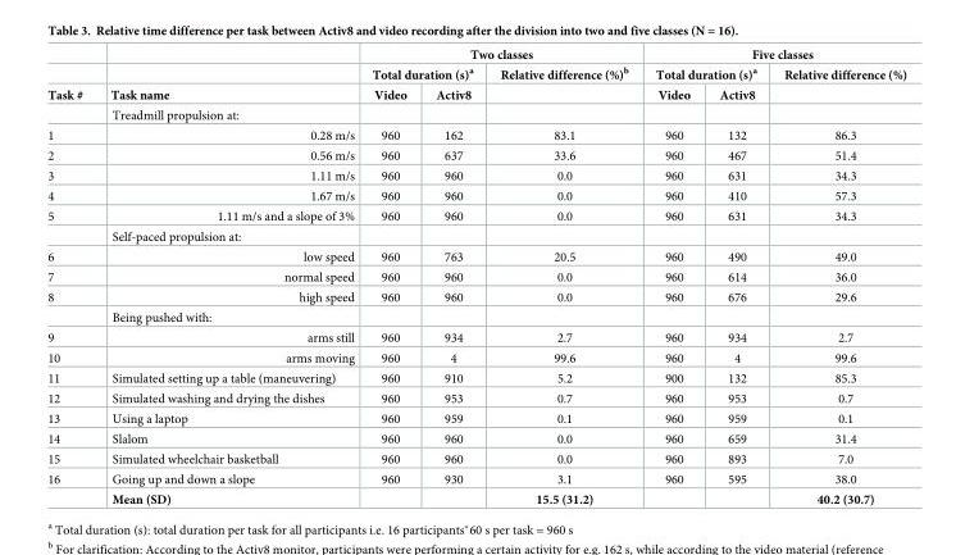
<table><thead><tr><td rowspan="3">Task #</td><td rowspan="3">Task name</td><td colspan="3">Two classes</td><td colspan="3">Five classes</td></tr><tr><td colspan="2">Total duration (s)<sup>a</sup></td><td rowspan="2">Relative difference (%)<sup>b</sup></td><td colspan="2">Total duration (s)<sup>a</sup></td><td rowspan="2">Relative difference (%)</td></tr><tr><td>Video</td><td>Activ8</td><td>Video</td><td>Activ8</td></tr></thead><tbody><tr><td></td><td>Treadmill propulsion at:</td><td></td><td></td><td></td><td></td><td></td><td></td></tr><tr><td>1</td><td>0.28 m/s</td><td>960</td><td>162</td><td>83.1</td><td>960</td><td>132</td><td>86.3</td></tr><tr><td>2</td><td>0.56 m/s</td><td>960</td><td>637</td><td>33.6</td><td>960</td><td>467</td><td>51.4</td></tr><tr><td>3</td><td>1.11 m/s</td><td>960</td><td>960</td><td>0.0</td><td>960</td><td>631</td><td>34.3</td></tr><tr><td>4</td><td>1.67 m/s</td><td>960</td><td>960</td><td>0.0</td><td>960</td><td>410</td><td>57.3</td></tr><tr><td rowspan="2">5</td><td>1.11 m/s and a slope of 3%</td><td>960</td><td>960</td><td>0.0</td><td>960</td><td>631</td><td>34.3</td></tr><tr><td>Self-paced propulsion at:</td><td></td><td></td><td></td><td></td><td></td><td></td></tr><tr><td>6</td><td>low speed</td><td>960</td><td>763</td><td>20.5</td><td>960</td><td>490</td><td>49.0</td></tr><tr><td>7</td><td>normal speed</td><td>960</td><td>960</td><td>0.0</td><td>960</td><td>614</td><td>36.0</td></tr><tr><td rowspan="2">8</td><td>high speed</td><td>960</td><td>960</td><td>0.0</td><td>960</td><td>676</td><td>29.6</td></tr><tr><td>Being pushed with:</td><td></td><td></td><td></td><td></td><td></td><td></td></tr><tr><td>9</td><td>arms still</td><td>960</td><td>934</td><td>2.7</td><td>960</td><td>934</td><td>2.7</td></tr><tr><td>10</td><td>arms moving</td><td>960</td><td>4</td><td>99.6</td><td>960</td><td>4</td><td>99.6</td></tr><tr><td>11</td><td>Simulated setting up a table (maneuvering)</td><td>960</td><td>910</td><td>5.2</td><td>900</td><td>132</td><td>85.3</td></tr><tr><td>12</td><td>Simulated washing and drying the dishes</td><td>960</td><td>953</td><td>0.7</td><td>960</td><td>953</td><td>0.7</td></tr><tr><td>13</td><td>Using a laptop</td><td>960</td><td>959</td><td>0.1</td><td>960</td><td>959</td><td>0.1</td></tr><tr><td>14</td><td>Slalom</td><td>960</td><td>960</td><td>0.0</td><td>960</td><td>659</td><td>31.4</td></tr><tr><td>15</td><td>Simulated wheelchair basketball</td><td>960</td><td>960</td><td>0.0</td><td>960</td><td>893</td><td>7.0</td></tr><tr><td rowspan="2">16</td><td>Going up and down a slope</td><td>960</td><td>930</td><td>3.1</td><td>960</td><td>595</td><td>38.0</td></tr><tr><td>Mean (SD)</td><td></td><td></td><td>15.5 (31.2)</td><td></td><td></td><td>40.2 (30.7)</td></tr></tbody></table>